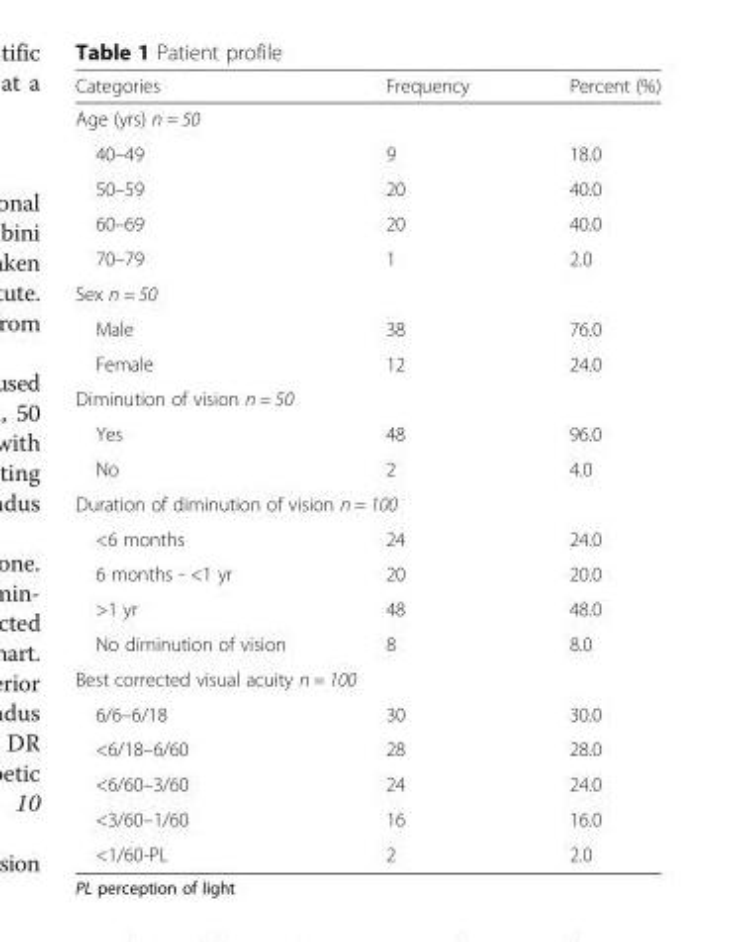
<table><thead><tr><td>Categories</td><td>Frequency</td><td>Percent (%)</td></tr></thead><tbody><tr><td colspan="3">Age (yrs) n = 50</td></tr><tr><td>40–49</td><td>9</td><td>18.0</td></tr><tr><td>50–59</td><td>20</td><td>40.0</td></tr><tr><td>60–69</td><td>20</td><td>40.0</td></tr><tr><td>70–79</td><td>1</td><td>2.0</td></tr><tr><td colspan="3">Sex n = 50</td></tr><tr><td>Male</td><td>38</td><td>76.0</td></tr><tr><td>Female</td><td>12</td><td>24.0</td></tr><tr><td colspan="3">Diminution of vision n = 50</td></tr><tr><td>Yes</td><td>48</td><td>96.0</td></tr><tr><td>No</td><td>2</td><td>4.0</td></tr><tr><td colspan="3">Duration of diminution of vision n = 100</td></tr><tr><td>&lt;6 months</td><td>24</td><td>24.0</td></tr><tr><td>6 months - &lt;1 yr</td><td>20</td><td>20.0</td></tr><tr><td>&gt;1 yr</td><td>48</td><td>48.0</td></tr><tr><td>No diminution of vision</td><td>8</td><td>8.0</td></tr><tr><td colspan="3">Best corrected visual acuity n = 100</td></tr><tr><td>6/6–6/18</td><td>30</td><td>30.0</td></tr><tr><td>&lt;6/18–6/60</td><td>28</td><td>28.0</td></tr><tr><td>&lt;6/60–3/60</td><td>24</td><td>24.0</td></tr><tr><td>&lt;3/60–1/60</td><td>16</td><td>16.0</td></tr><tr><td>&lt;1/60-PL</td><td>2</td><td>2.0</td></tr></tbody></table>